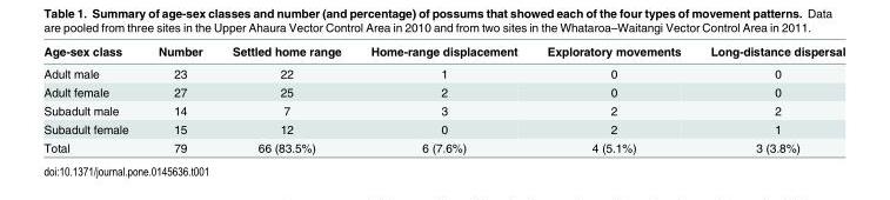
<table><thead><tr><td>Age-sex class</td><td>Number</td><td>Settled home range</td><td>Home-range displacement</td><td>Exploratory movements</td><td>Long-distance dispersal</td></tr></thead><tbody><tr><td>Adult male</td><td>23</td><td>22</td><td>1</td><td>0</td><td>0</td></tr><tr><td>Adult female</td><td>27</td><td>25</td><td>2</td><td>0</td><td>0</td></tr><tr><td>Subadult male</td><td>14</td><td>7</td><td>3</td><td>2</td><td>2</td></tr><tr><td>Subadult female</td><td>15</td><td>12</td><td>0</td><td>2</td><td>1</td></tr><tr><td>Total</td><td>79</td><td>66 (83.5%)</td><td>6 (7.6%)</td><td>4 (5.1%)</td><td>3 (3.8%)</td></tr></tbody></table>